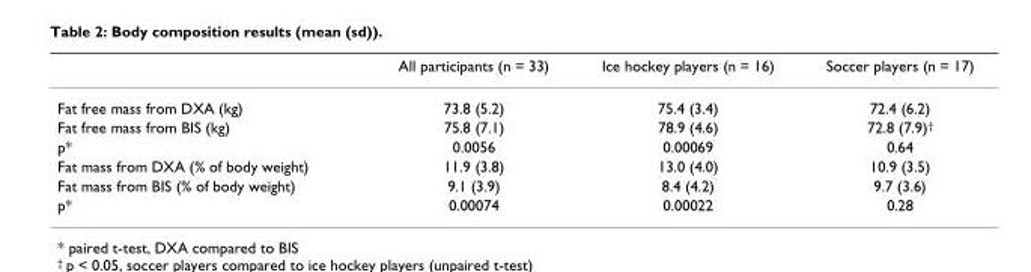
<table><thead><tr><td></td><td>All participants (n = 33)</td><td>Ice hockey players (n = 16)</td><td>Soccer players (n = 17)</td></tr></thead><tbody><tr><td>Fat free mass from DXA (kg)</td><td>73.8 (5.2)</td><td>75.4 (3.4)</td><td>72.4 (6.2)</td></tr><tr><td>Fat free mass from BIS (kg)</td><td>75.8 (7.1)</td><td>78.9 (4.6)</td><td>72.8 (7.9)<sup>†</sup></td></tr><tr><td>p*</td><td>0.0056</td><td>0.00069</td><td>0.64</td></tr><tr><td>Fat mass from DXA (% of body weight)</td><td>11.9 (3.8)</td><td>13.0 (4.0)</td><td>10.9 (3.5)</td></tr><tr><td>Fat mass from BIS (% of body weight)</td><td>9.1 (3.9)</td><td>8.4 (4.2)</td><td>9.7 (3.6)</td></tr><tr><td>p*</td><td>0.00074</td><td>0.00022</td><td>0.28</td></tr></tbody></table>